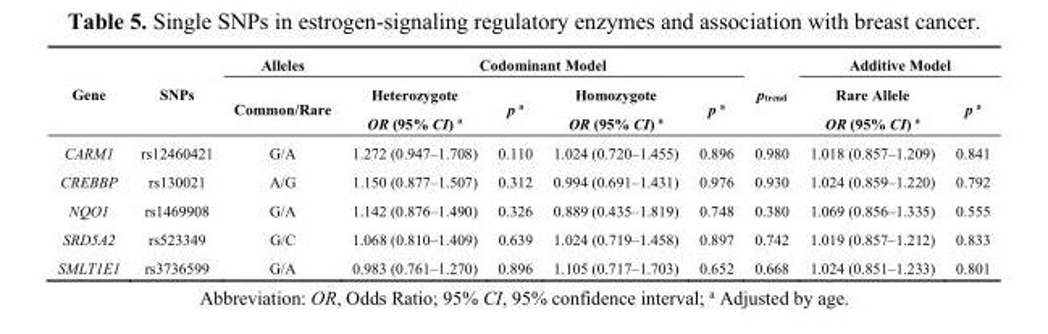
<table><thead><tr><td rowspan="2">Gene</td><td rowspan="2">SNPs</td><td rowspan="2">Alleles Common/Rare</td><td colspan="4">Codominant Model</td><td rowspan="2">p<sub>trend</sub></td><td colspan="2">Additive Model</td></tr><tr><td>Heterozygote OR (95% CI) <sup>a</sup></td><td>p <sup>a</sup></td><td>Homozygote OR (95% CI) <sup>a</sup></td><td>p <sup>a</sup></td><td>Rare Allele OR (95% CI) <sup>a</sup></td><td>p <sup>a</sup></td></tr></thead><tbody><tr><td>CARM1</td><td>rs12460421</td><td>G/A</td><td>1.272 (0.947–1.708)</td><td>0.110</td><td>1.024 (0.720–1.455)</td><td>0.896</td><td>0.980</td><td>1.018 (0.857–1.209)</td><td>0.841</td></tr><tr><td>CREBBP</td><td>rs130021</td><td>A/G</td><td>1.150 (0.877–1.507)</td><td>0.312</td><td>0.994 (0.691–1.431)</td><td>0.976</td><td>0.930</td><td>1.024 (0.859–1.220)</td><td>0.792</td></tr><tr><td>NQO1</td><td>rs1469908</td><td>G/A</td><td>1.142 (0.876–1.490)</td><td>0.326</td><td>0.889 (0.435–1.819)</td><td>0.748</td><td>0.380</td><td>1.069 (0.856–1.335)</td><td>0.555</td></tr><tr><td>SRD5A2</td><td>rs523349</td><td>G/C</td><td>1.068 (0.810–1.409)</td><td>0.639</td><td>1.024 (0.719–1.458)</td><td>0.897</td><td>0.742</td><td>1.019 (0.857–1.212)</td><td>0.833</td></tr><tr><td>SΜLT1E1</td><td>rs3736599</td><td>G/A</td><td>0.983 (0.761–1.270)</td><td>0.896</td><td>1.105 (0.717–1.703)</td><td>0.652</td><td>0.668</td><td>1.024 (0.851–1.233)</td><td>0.801</td></tr></tbody></table>